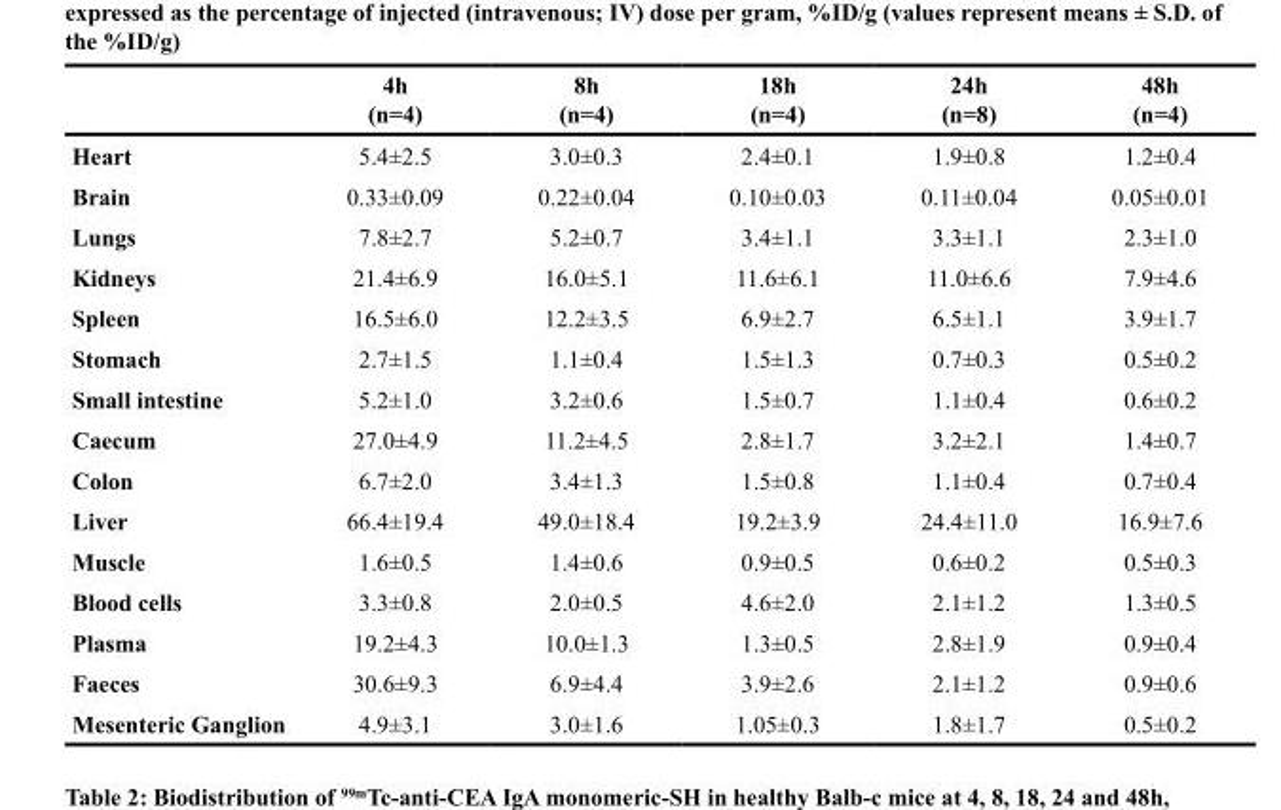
<table><thead><tr><td rowspan="2"></td><td rowspan="2">4h (n=4)</td><td rowspan="2">8h (n=4)</td><td rowspan="2">18h (n=4)</td><td rowspan="2">24h (n=8)</td><td rowspan="2">48h (n=4)</td></tr><tr></tr></thead><tbody><tr><td>Heart</td><td>5.4±2.5</td><td>3.0±0.3</td><td>2.4±0.1</td><td>1.9±0.8</td><td>1.2±0.4</td></tr><tr><td>Brain</td><td>0.33±0.09</td><td>0.22±0.04</td><td>0.10±0.03</td><td>0.11±0.04</td><td>0.05±0.01</td></tr><tr><td>Lungs</td><td>7.8±2.7</td><td>5.2±0.7</td><td>3.4±1.1</td><td>3.3±1.1</td><td>2.3±1.0</td></tr><tr><td>Kidneys</td><td>21.4±6.9</td><td>16.0±5.1</td><td>11.6±6.1</td><td>11.0±6.6</td><td>7.9±4.6</td></tr><tr><td>Spleen</td><td>16.5±6.0</td><td>12.2±3.5</td><td>6.9±2.7</td><td>6.5±1.1</td><td>3.9±1.7</td></tr><tr><td>Stomach</td><td>2.7±1.5</td><td>1.1±0.4</td><td>1.5±1.3</td><td>0.7±0.3</td><td>0.5±0.2</td></tr><tr><td>Small intestine</td><td>5.2±1.0</td><td>3.2±0.6</td><td>1.5±0.7</td><td>1.1±0.4</td><td>0.6±0.2</td></tr><tr><td>Caecum</td><td>27.0±4.9</td><td>11.2±4.5</td><td>2.8±1.7</td><td>3.2±2.1</td><td>1.4±0.7</td></tr><tr><td>Colon</td><td>6.7±2.0</td><td>3.4±1.3</td><td>1.5±0.8</td><td>1.1±0.4</td><td>0.7±0.4</td></tr><tr><td>Liver</td><td>66.4±19.4</td><td>49.0±18.4</td><td>19.2±3.9</td><td>24.4±11.0</td><td>16.9±7.6</td></tr><tr><td>Muscle</td><td>1.6±0.5</td><td>1.4±0.6</td><td>0.9±0.5</td><td>0.6±0.2</td><td>0.5±0.3</td></tr><tr><td>Blood cells</td><td>3.3±0.8</td><td>2.0±0.5</td><td>4.6±2.0</td><td>2.1±1.2</td><td>1.3±0.5</td></tr><tr><td>Plasma</td><td>19.2±4.3</td><td>10.0±1.3</td><td>1.3±0.5</td><td>2.8±1.9</td><td>0.9±0.4</td></tr><tr><td>Faeces</td><td>30.6±9.3</td><td>6.9±4.4</td><td>3.9±2.6</td><td>2.1±1.2</td><td>0.9±0.6</td></tr><tr><td>Mesenteric Ganglion</td><td>4.9±3.1</td><td>3.0±1.6</td><td>1.05±0.3</td><td>1.8±1.7</td><td>0.5±0.2</td></tr></tbody></table>